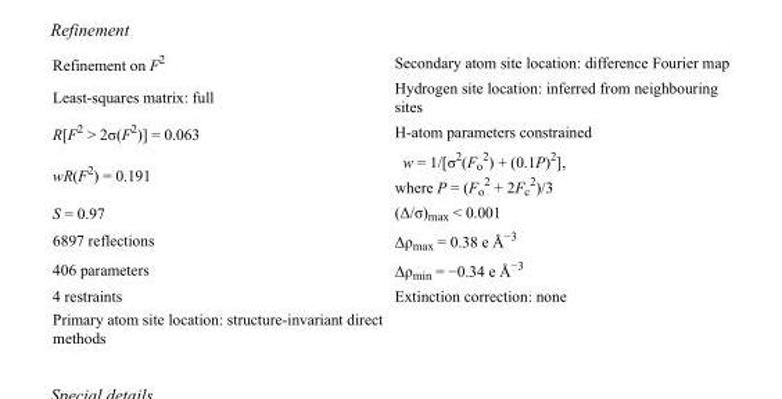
<table><tbody><tr><td>Refinement on F<sup>2</sup></td><td>Secondary atom site location: difference Fourier map</td></tr><tr><td>Least-squares matrix: full</td><td>Hydrogen site location: inferred from neighbouring sites</td></tr><tr><td>R[F<sup>2</sup> &gt; 2σ(F<sup>2</sup>)] = 0.063</td><td>H-atom parameters constrained</td></tr><tr><td>wR(F<sup>2</sup>) = 0.191</td><td>w = 1/[σ<sup>2</sup>(F<sub>o</sub> <sup>2</sup>) + (0.1P)<sup>2</sup>], where P = (F<sub>o</sub> <sup>2</sup> + 2F<sub>c</sub> <sup>2</sup>)/3</td></tr><tr><td>S = 0.97</td><td>(Δ/σ)<sub>max</sub> &lt; 0.001</td></tr><tr><td>6897 reflections</td><td>Δρ<sub>max</sub> = 0.38 e Å<sup>−3</sup></td></tr><tr><td>406 parameters</td><td>Δρ<sub>min</sub> = −0.34 e Å<sup>−3</sup></td></tr><tr><td>4 restraints</td><td>Extinction correction: none</td></tr><tr><td>Primary atom site location: structure-invariant direct methods</td><td></td></tr></tbody></table>